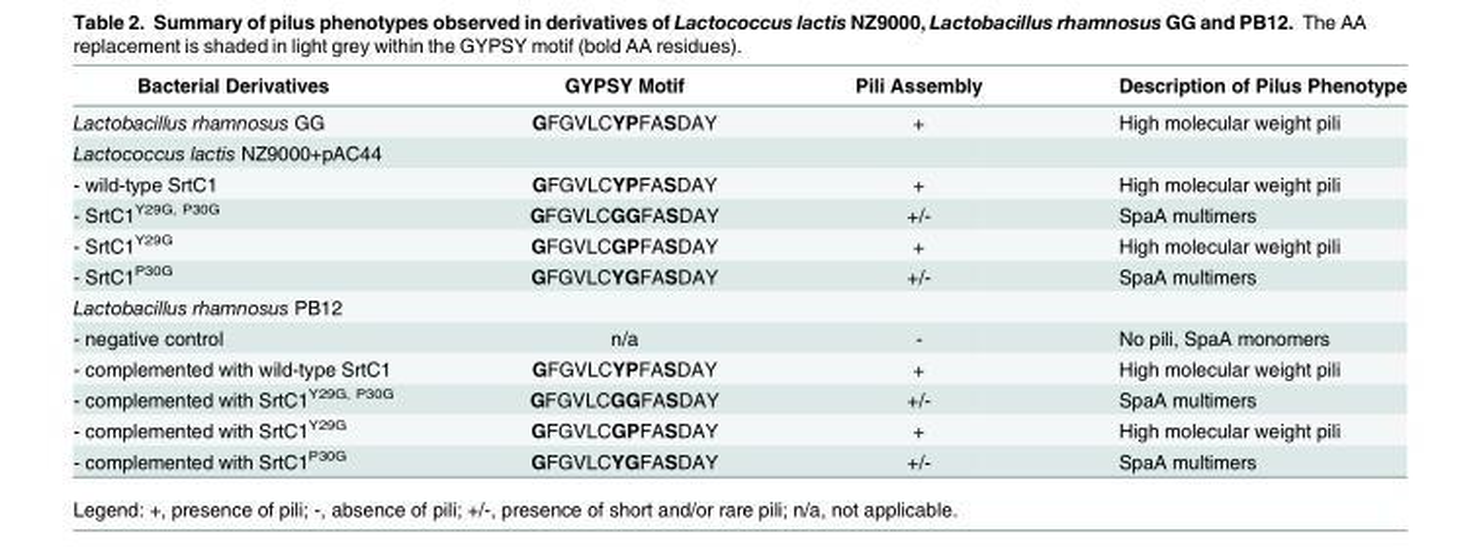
<table><thead><tr><td>Bacterial Derivatives</td><td>GYPSY Motif</td><td>Pili Assembly</td><td>Description of Pilus Phenotype</td></tr></thead><tbody><tr><td>Lactobacillus rhamnosus GG</td><td>GFGVLCYPFASDAY</td><td>+</td><td>High molecular weight pili</td></tr><tr><td colspan="4">Lactococcus lactis NZ9000+pAC44</td></tr><tr><td>- wild-type SrtC1</td><td>GFGVLCYPFASDAY</td><td>+</td><td>High molecular weight pili</td></tr><tr><td>- SrtC1<sup>Y29G, P30G</sup></td><td>GFGVLCGGFASDAY</td><td>+/-</td><td>SpaA multimers</td></tr><tr><td>- SrtC1<sup>Y29G</sup></td><td>GFGVLCGPFASDAY</td><td>+</td><td>High molecular weight pili</td></tr><tr><td>- SrtC1<sup>P30G</sup></td><td>GFGVLCYGFASDAY</td><td>+/-</td><td>SpaA multimers</td></tr><tr><td colspan="4">Lactobacillus rhamnosus PB12</td></tr><tr><td>- negative control</td><td>n/a</td><td>-</td><td>No pili, SpaA monomers</td></tr><tr><td>- complemented with wild-type SrtC1</td><td>GFGVLCYPFASDAY</td><td>+</td><td>High molecular weight pili</td></tr><tr><td>- complemented with SrtC1<sup>Y29G, P30G</sup></td><td>GFGVLCGGFASDAY</td><td>+/-</td><td>SpaA multimers</td></tr><tr><td>- complemented with SrtC1<sup>Y29G</sup></td><td>GFGVLCGPFASDAY</td><td>+</td><td>High molecular weight pili</td></tr><tr><td>- complemented with SrtC1<sup>P30G</sup></td><td>GFGVLCYGFASDAY</td><td>+/-</td><td>SpaA multimers</td></tr></tbody></table>